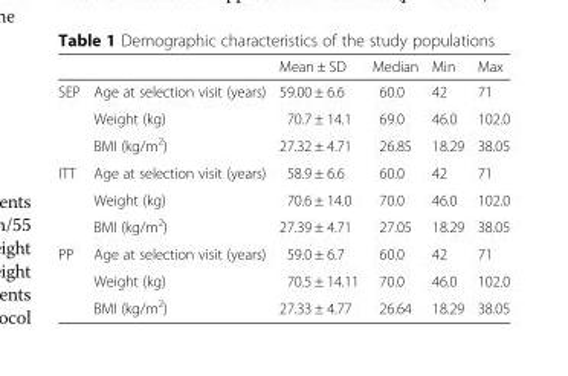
<table><thead><tr><td></td><td></td><td>Mean ± SD</td><td>Median</td><td>Min</td><td>Max</td></tr></thead><tbody><tr><td rowspan="3">SEP</td><td>Age at selection visit (years)</td><td>59.00 ± 6.6</td><td>60.0</td><td>42</td><td>71</td></tr><tr><td>Weight (kg)</td><td>70.7 ± 14.1</td><td>69.0</td><td>46.0</td><td>102.0</td></tr><tr><td>BMI (kg/m<sup>2</sup>)</td><td>27.32 ± 4.71</td><td>26.85</td><td>18.29</td><td>38.05</td></tr><tr><td rowspan="3">ITT</td><td>Age at selection visit (years)</td><td>58.9 ± 6.6</td><td>60.0</td><td>42</td><td>71</td></tr><tr><td>Weight (kg)</td><td>70.6 ± 14.0</td><td>70.0</td><td>46.0</td><td>102.0</td></tr><tr><td>BMI (kg/m<sup>2</sup>)</td><td>27.39 ± 4.71</td><td>27.05</td><td>18.29</td><td>38.05</td></tr><tr><td rowspan="3">PP</td><td>Age at selection visit (years)</td><td>59.0 ± 6.7</td><td>60.0</td><td>42</td><td>71</td></tr><tr><td>Weight (kg)</td><td>70.5 ± 14.11</td><td>70.0</td><td>46.0</td><td>102.0</td></tr><tr><td>BMI (kg/m<sup>2</sup>)</td><td>27.33 ± 4.77</td><td>26.64</td><td>18.29</td><td>38.05</td></tr></tbody></table>